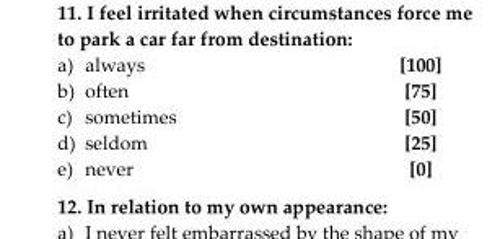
<table><tbody><tr><td>a) always</td><td>[100]</td></tr><tr><td>b) often</td><td>[75]</td></tr><tr><td>c) sometimes</td><td>[50]</td></tr><tr><td>d) seldom</td><td>[25]</td></tr><tr><td>e) never</td><td>[0]</td></tr></tbody></table>